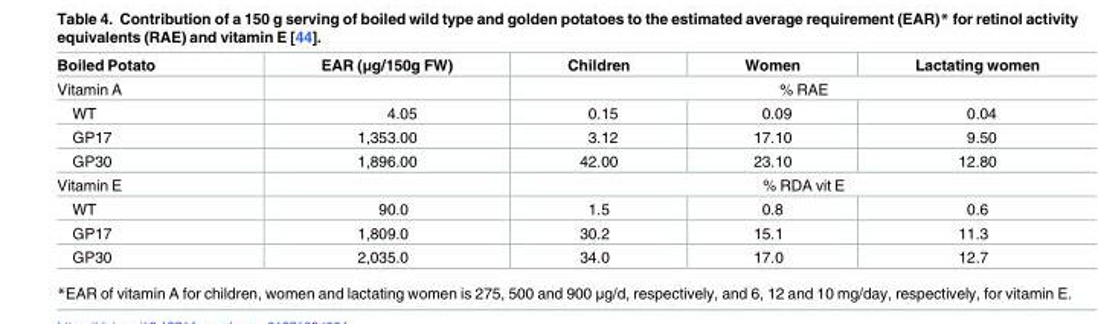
<table><thead><tr><td>Boiled Potato</td><td>EAR (μg/150g FW)</td><td>Children</td><td>Women</td><td>Lactating women</td></tr></thead><tbody><tr><td>Vitamin A</td><td></td><td colspan="3">% RAE</td></tr><tr><td>WT</td><td>4.05</td><td>0.15</td><td>0.09</td><td>0.04</td></tr><tr><td>GP17</td><td>1,353.00</td><td>3.12</td><td>17.10</td><td>9.50</td></tr><tr><td>GP30</td><td>1,896.00</td><td>42.00</td><td>23.10</td><td>12.80</td></tr><tr><td>Vitamin E</td><td></td><td colspan="3">% RDA vit E</td></tr><tr><td>WT</td><td>90.0</td><td>1.5</td><td>0.8</td><td>0.6</td></tr><tr><td>GP17</td><td>1,809.0</td><td>30.2</td><td>15.1</td><td>11.3</td></tr><tr><td>GP30</td><td>2,035.0</td><td>34.0</td><td>17.0</td><td>12.7</td></tr></tbody></table>